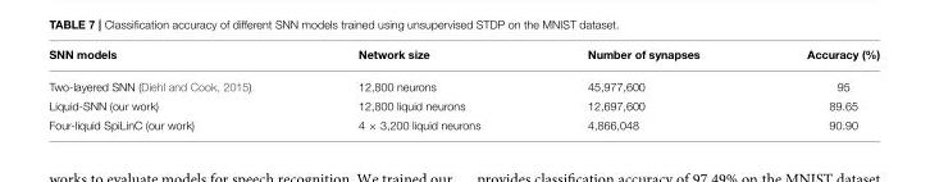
<table><thead><tr><td>SNN models</td><td>Network size</td><td>Number of synapses</td><td>Accuracy (%)</td></tr></thead><tbody><tr><td>Two-layered SNN (Diehl and Cook, 2015)</td><td>12,800 neurons</td><td>45,977,600</td><td>95</td></tr><tr><td>Liquid-SNN (our work)</td><td>12,800 liquid neurons</td><td>12,697,600</td><td>89.65</td></tr><tr><td>Four-liquid SpiLinC (our work)</td><td>4 × 3,200 liquid neurons</td><td>4,866,048</td><td>90.90</td></tr></tbody></table>